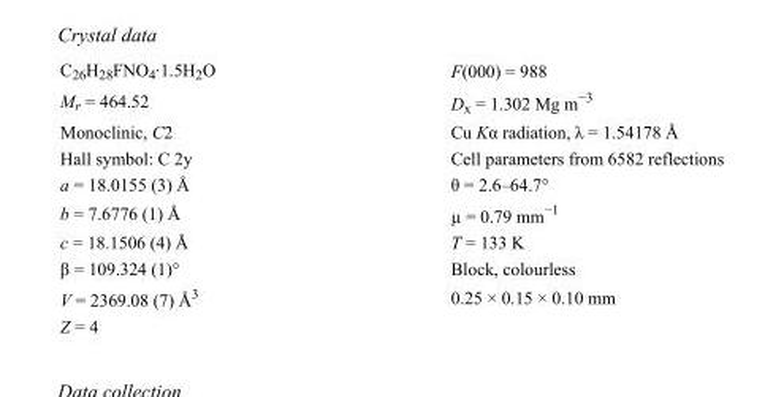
<table><tbody><tr><td>C<sub>26</sub>H<sub>28</sub>FNO<sub>4</sub>·1.5H<sub>2</sub>O</td><td>F(000) = 988</td></tr><tr><td>M<sub>r</sub> = 464.52</td><td>D<sub>x</sub> = 1.302 Mg m<sup>−3</sup></td></tr><tr><td>Monoclinic, C2</td><td>Cu Kα radiation, λ = 1.54178 Å</td></tr><tr><td>Hall symbol: C 2y</td><td>Cell parameters from 6582 reflections</td></tr><tr><td>a = 18.0155 (3) Å</td><td>θ = 2.6–64.7°</td></tr><tr><td>b = 7.6776 (1) Å</td><td>µ = 0.79 mm<sup>−1</sup></td></tr><tr><td>c = 18.1506 (4) Å</td><td>T = 133 K</td></tr><tr><td>β = 109.324 (1)°</td><td>Block, colourless</td></tr><tr><td>V = 2369.08 (7) Å<sup>3</sup></td><td>0.25 × 0.15 × 0.10 mm</td></tr><tr><td>Z = 4</td><td></td></tr></tbody></table>